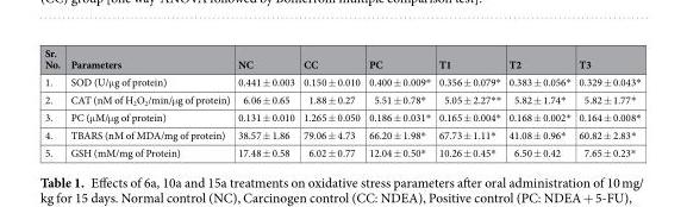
<table><thead><tr><td>Sr. No.</td><td>Parameters</td><td>NC</td><td>CC</td><td>PC</td><td>T1</td><td>T2</td><td>T3</td></tr></thead><tbody><tr><td>1.</td><td>SOD (U/μg of protein)</td><td>0.441 ± 0.003</td><td>0.150 ± 0.010</td><td>0.400 ± 0.009*</td><td>0.356 ± 0.079*</td><td>0.383 ± 0.056*</td><td>0.329 ± 0.043*</td></tr><tr><td>2.</td><td>CAT (nM of H<sub>2</sub>O<sub>2</sub>/min/μg of protein)</td><td>6.06 ± 0.65</td><td>1.88 ± 0.27</td><td>5.51 ± 0.78*</td><td>5.05 ± 2.27**</td><td>5.82 ± 1.74*</td><td>5.82 ± 1.77*</td></tr><tr><td>3.</td><td>PC (μM/μg of protein)</td><td>0.131 ± 0.010</td><td>1.265 ± 0.050</td><td>0.186 ± 0.031*</td><td>0.165 ± 0.004*</td><td>0.168 ± 0.002*</td><td>0.164 ± 0.008*</td></tr><tr><td>4.</td><td>TBARS (nM of MDA/mg of protein)</td><td>38.57 ± 1.86</td><td>79.06 ± 4.73</td><td>66.20 ± 1.98*</td><td>67.73 ± 1.11*</td><td>41.08 ± 0.96*</td><td>60.82 ± 2.83*</td></tr><tr><td>5.</td><td>GSH (mM/mg of Protein)</td><td>17.48 ± 0.58</td><td>6.02 ± 0.77</td><td>12.04 ± 0.50*</td><td>10.26 ± 0.45*</td><td>6.50 ± 0.42</td><td>7.65 ± 0.23*</td></tr></tbody></table>